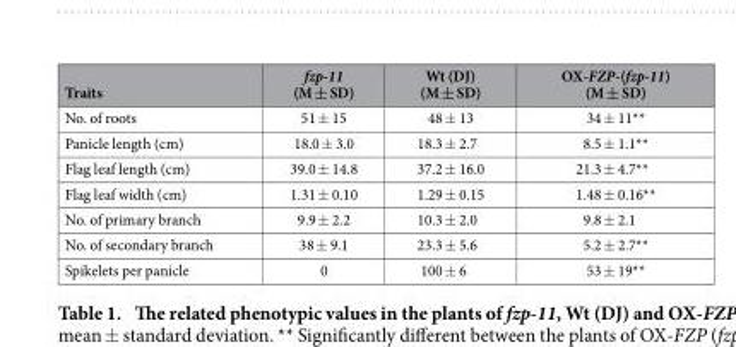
<table><thead><tr><td>Traits</td><td>fzp-11 (M ± SD)</td><td>Wt (DJ) (M ± SD)</td><td>OX-FZP-(fzp-11) (M ± SD)</td></tr></thead><tbody><tr><td>No. of roots</td><td>51 ± 15</td><td>48 ± 13</td><td>34 ± 11**</td></tr><tr><td>Panicle length (cm)</td><td>18.0 ± 3.0</td><td>18.3 ± 2.7</td><td>8.5 ± 1.1**</td></tr><tr><td>Flag leaf length (cm)</td><td>39.0 ± 14.8</td><td>37.2 ± 16.0</td><td>21.3 ± 4.7**</td></tr><tr><td>Flag leaf width (cm)</td><td>1.31 ± 0.10</td><td>1.29 ± 0.15</td><td>1.48 ± 0.16**</td></tr><tr><td>No. of primary branch</td><td>9.9 ± 2.2</td><td>10.3 ± 2.0</td><td>9.8 ± 2.1</td></tr><tr><td>No. of secondary branch</td><td>38 ± 9.1</td><td>23.3 ± 5.6</td><td>5.2 ± 2.7**</td></tr><tr><td>Spikelets per panicle</td><td>0</td><td>100 ± 6</td><td>53 ± 19**</td></tr></tbody></table>